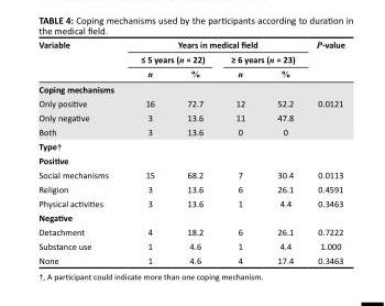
<table><thead><tr><td rowspan="3">Variable</td><td colspan="4">Years in medical field</td><td rowspan="3">P-value</td></tr><tr><td colspan="2">≤ 5 years (n = 22)</td><td colspan="2">≥ 6 years (n = 23)</td></tr><tr><td>n</td><td>%</td><td>n</td><td>%</td></tr></thead><tbody><tr><td colspan="6">Coping mechanisms</td></tr><tr><td>Only positive</td><td>16</td><td>72.7</td><td>12</td><td>52.2</td><td rowspan="3">0.0121</td></tr><tr><td>Only negative</td><td>3</td><td>13.6</td><td>11</td><td>47.8</td></tr><tr><td>Both</td><td>3</td><td>13.6</td><td>0</td><td>0</td></tr><tr><td colspan="6">Type†</td></tr><tr><td colspan="6">Positive</td></tr><tr><td>Social mechanisms</td><td>15</td><td>68.2</td><td>7</td><td>30.4</td><td>0.0113</td></tr><tr><td>Religion</td><td>3</td><td>13.6</td><td>6</td><td>26.1</td><td>0.4591</td></tr><tr><td>Physical activities</td><td>3</td><td>13.6</td><td>1</td><td>4.4</td><td>0.3463</td></tr><tr><td colspan="6">Negative</td></tr><tr><td>Detachment</td><td>4</td><td>18.2</td><td>6</td><td>26.1</td><td>0.7222</td></tr><tr><td>Substance use</td><td>1</td><td>4.6</td><td>1</td><td>4.4</td><td>1.000</td></tr><tr><td>None</td><td>1</td><td>4.6</td><td>4</td><td>17.4</td><td>0.3463</td></tr></tbody></table>